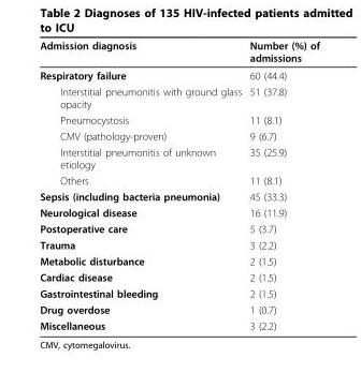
<table><thead><tr><td>Admission diagnosis</td><td>Number (%) of admissions</td></tr></thead><tbody><tr><td>Respiratory failure</td><td>60 (44.4)</td></tr><tr><td>Interstitial pneumonitis with ground glass opacity</td><td>51 (37.8)</td></tr><tr><td>Pneumocystosis</td><td>11 (8.1)</td></tr><tr><td>CMV (pathology-proven)</td><td>9 (6.7)</td></tr><tr><td>Interstitial pneumonitis of unknown etiology</td><td>35 (25.9)</td></tr><tr><td>Others</td><td>11 (8.1)</td></tr><tr><td>Sepsis (including bacteria pneumonia)</td><td>45 (33.3)</td></tr><tr><td>Neurological disease</td><td>16 (11.9)</td></tr><tr><td>Postoperative care</td><td>5 (3.7)</td></tr><tr><td>Trauma</td><td>3 (2.2)</td></tr><tr><td>Metabolic disturbance</td><td>2 (1.5)</td></tr><tr><td>Cardiac disease</td><td>2 (1.5)</td></tr><tr><td>Gastrointestinal bleeding</td><td>2 (1.5)</td></tr><tr><td>Drug overdose</td><td>1 (0.7)</td></tr><tr><td>Miscellaneous</td><td>3 (2.2)</td></tr></tbody></table>